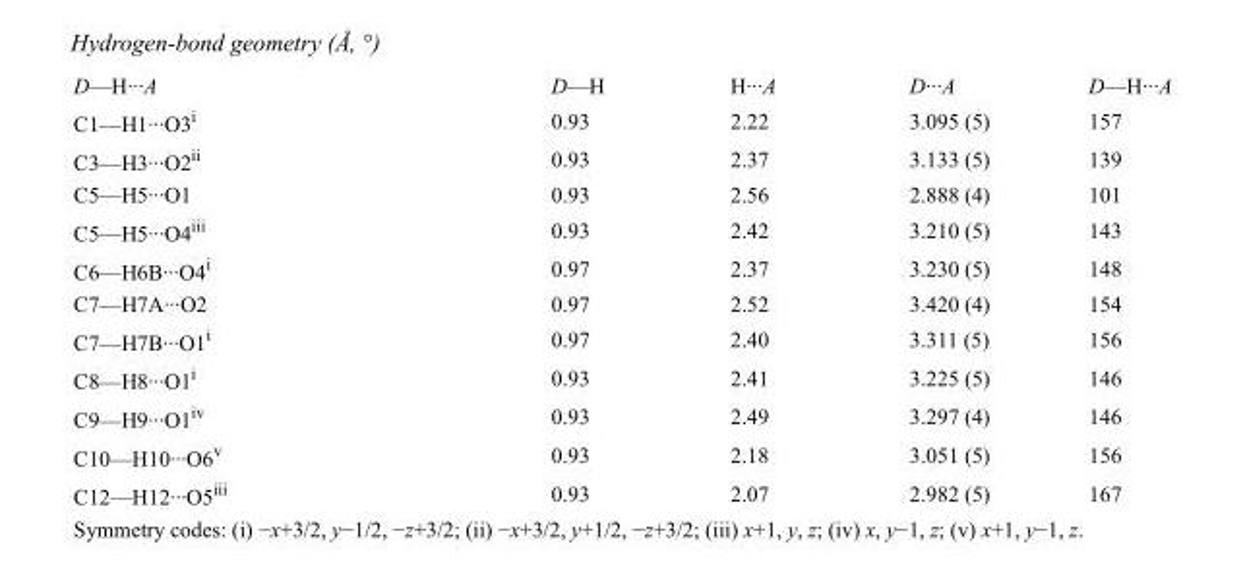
<table><tbody><tr><td>D—H···A</td><td>D—H</td><td>H···A</td><td>D···A</td><td>D—H···A</td></tr><tr><td>C1—H1···O3<sup>i</sup></td><td>0.93</td><td>2.22</td><td>3.095 (5)</td><td>157</td></tr><tr><td>C3—H3···O2<sup>ii</sup></td><td>0.93</td><td>2.37</td><td>3.133 (5)</td><td>139</td></tr><tr><td>C5—H5···O1</td><td>0.93</td><td>2.56</td><td>2.888 (4)</td><td>101</td></tr><tr><td>C5—H5···O4<sup>iii</sup></td><td>0.93</td><td>2.42</td><td>3.210 (5)</td><td>143</td></tr><tr><td>C6—H6B···O4<sup>i</sup></td><td>0.97</td><td>2.37</td><td>3.230 (5)</td><td>148</td></tr><tr><td>C7—H7A···O2</td><td>0.97</td><td>2.52</td><td>3.420 (4)</td><td>154</td></tr><tr><td>C7—H7B···O1<sup>i</sup></td><td>0.97</td><td>2.40</td><td>3.311 (5)</td><td>156</td></tr><tr><td>C8—H8···O1<sup>i</sup></td><td>0.93</td><td>2.41</td><td>3.225 (5)</td><td>146</td></tr><tr><td>C9—H9···O1<sup>iv</sup></td><td>0.93</td><td>2.49</td><td>3.297 (4)</td><td>146</td></tr><tr><td>C10—H10···O6<sup>v</sup></td><td>0.93</td><td>2.18</td><td>3.051 (5)</td><td>156</td></tr><tr><td>C12—H12···O5<sup>iii</sup></td><td>0.93</td><td>2.07</td><td>2.982 (5)</td><td>167</td></tr></tbody></table>